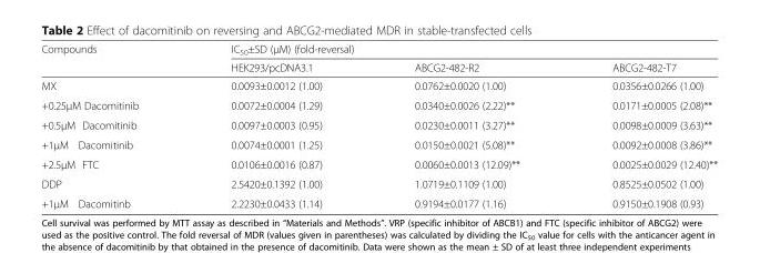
<table><thead><tr><td rowspan="2">Compounds</td><td colspan="3">IC<sub>50</sub>±SD (μM) (fold-reversal)</td></tr><tr><td>HEK293/pcDNA3.1</td><td>ABCG2-482-R2</td><td>ABCG2-482-T7</td></tr></thead><tbody><tr><td>MX</td><td>0.0093±0.0012 (1.00)</td><td>0.0762±0.0020 (1.00)</td><td>0.0356±0.0266 (1.00)</td></tr><tr><td>+0.25μM Dacomitinib</td><td>0.0072±0.0004 (1.29)</td><td>0.0340±0.0026 (2.22)**</td><td>0.0171±0.0005 (2.08)**</td></tr><tr><td>+0.5μM Dacomitinib</td><td>0.0097±0.0003 (0.95)</td><td>0.0230±0.0011 (3.27)**</td><td>0.0098±0.0009 (3.63)**</td></tr><tr><td>+1μM Dacomitinib</td><td>0.0074±0.0001 (1.25)</td><td>0.0150±0.0021 (5.08)**</td><td>0.0092±0.0008 (3.86)**</td></tr><tr><td>+2.5μM FTC</td><td>0.0106±0.0016 (0.87)</td><td>0.0060±0.0013 (12.09)**</td><td>0.0025±0.0029 (12.40)**</td></tr><tr><td>DDP</td><td>2.5420±0.1392 (1.00)</td><td>1.0719±0.1109 (1.00)</td><td>0.8525±0.0502 (1.00)</td></tr><tr><td>+1μM Dacomitinb</td><td>2.2230±0.0433 (1.14)</td><td>0.9194±0.0177 (1.16)</td><td>0.9150±0.1908 (0.93)</td></tr></tbody></table>